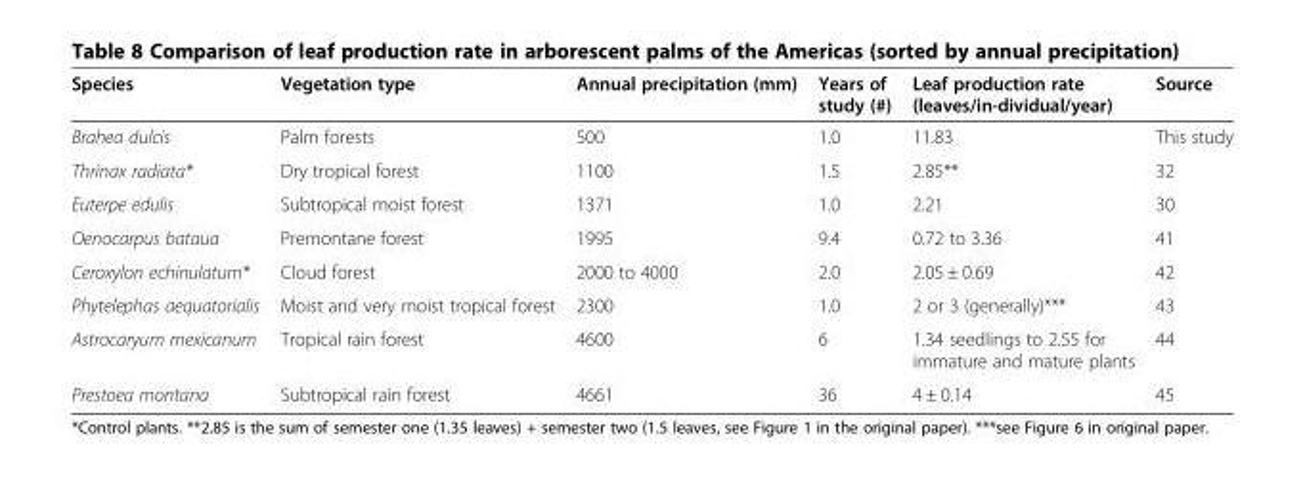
<table><thead><tr><td>Species</td><td>Vegetation type</td><td>Annual precipitation (mm)</td><td>Years of study (#)</td><td>Leaf production rate (leaves/in-dividual/year)</td><td>Source</td></tr></thead><tbody><tr><td>Brahea dulcis</td><td>Palm forests</td><td>500</td><td>1.0</td><td>11.83</td><td>This study</td></tr><tr><td>Thrinax radiata*</td><td>Dry tropical forest</td><td>1100</td><td>1.5</td><td>2.85**</td><td>32</td></tr><tr><td>Euterpe edulis</td><td>Subtropical moist forest</td><td>1371</td><td>1.0</td><td>2.21</td><td>30</td></tr><tr><td>Oenocarpus bataua</td><td>Premontane forest</td><td>1995</td><td>9.4</td><td>0.72 to 3.36</td><td>41</td></tr><tr><td>Ceroxylon echinulatum*</td><td>Cloud forest</td><td>2000 to 4000</td><td>2.0</td><td>2.05 ± 0.69</td><td>42</td></tr><tr><td>Phytelephas aequatorialis</td><td>Moist and very moist tropical forest</td><td>2300</td><td>1.0</td><td>2 or 3 (generally)***</td><td>43</td></tr><tr><td>Astrocaryum mexicanum</td><td>Tropical rain forest</td><td>4600</td><td>6</td><td>1.34 seedlings to 2.55 for immature and mature plants</td><td>44</td></tr><tr><td>Prestoea montana</td><td>Subtropical rain forest</td><td>4661</td><td>36</td><td>4 ± 0.14</td><td>45</td></tr></tbody></table>